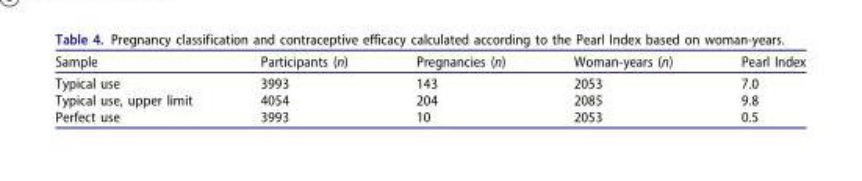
<table><thead><tr><td>Sample</td><td>Participants (n)</td><td>Pregnancies (n)</td><td>Woman-years (n)</td><td>Pearl Index</td></tr></thead><tbody><tr><td>Typical use</td><td>3993</td><td>143</td><td>2053</td><td>7.0</td></tr><tr><td>Typical use, upper limit</td><td>4054</td><td>204</td><td>2085</td><td>9.8</td></tr><tr><td>Perfect use</td><td>3993</td><td>10</td><td>2053</td><td>0.5</td></tr></tbody></table>